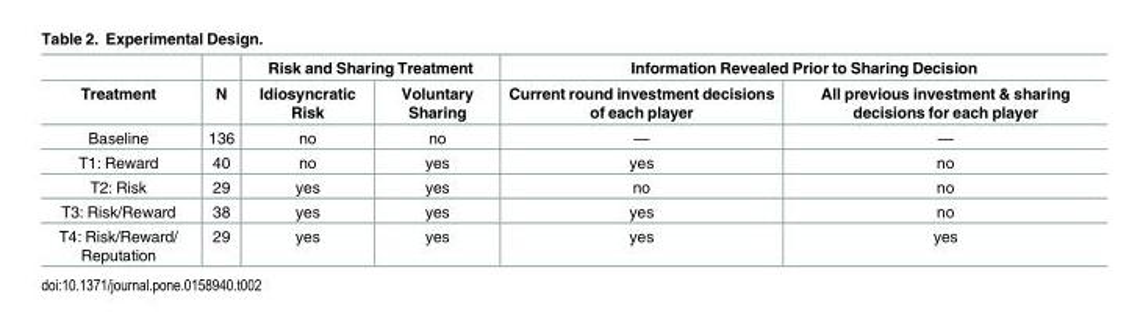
<table><thead><tr><td rowspan="2">Treatment</td><td rowspan="2">N</td><td colspan="2">Risk and Sharing Treatment</td><td colspan="2">Information Revealed Prior to Sharing Decision</td></tr><tr><td>Idiosyncratic Risk</td><td>Voluntary Sharing</td><td>Current round investment decisions of each player</td><td>All previous investment &amp; sharing decisions for each player</td></tr></thead><tbody><tr><td>Baseline</td><td>136</td><td>no</td><td>no</td><td>—</td><td>—</td></tr><tr><td>T1: Reward</td><td>40</td><td>no</td><td>yes</td><td>yes</td><td>no</td></tr><tr><td>T2: Risk</td><td>29</td><td>yes</td><td>yes</td><td>no</td><td>no</td></tr><tr><td>T3: Risk/Reward</td><td>38</td><td>yes</td><td>yes</td><td>yes</td><td>no</td></tr><tr><td>T4: Risk/Reward/ Reputation</td><td>29</td><td>yes</td><td>yes</td><td>yes</td><td>yes</td></tr></tbody></table>